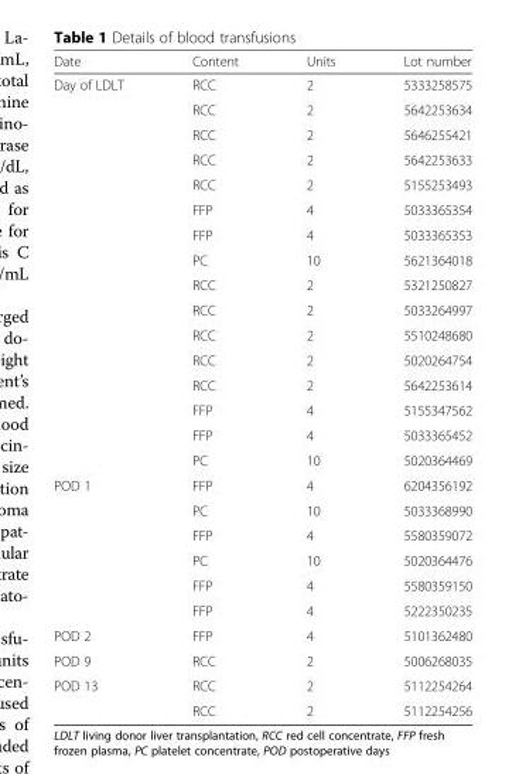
<table><thead><tr><td>Date</td><td>Content</td><td>Units</td><td>Lot number</td></tr></thead><tbody><tr><td rowspan="16">Day of LDLT</td><td>RCC</td><td>2</td><td>5333258575</td></tr><tr><td>RCC</td><td>2</td><td>5642253634</td></tr><tr><td>RCC</td><td>2</td><td>5646255421</td></tr><tr><td>RCC</td><td>2</td><td>5642253633</td></tr><tr><td>RCC</td><td>2</td><td>5155253493</td></tr><tr><td>FFP</td><td>4</td><td>5033365354</td></tr><tr><td>FFP</td><td>4</td><td>5033365353</td></tr><tr><td>PC</td><td>10</td><td>5621364018</td></tr><tr><td>RCC</td><td>2</td><td>5321250827</td></tr><tr><td>RCC</td><td>2</td><td>5033264997</td></tr><tr><td>RCC</td><td>2</td><td>5510248680</td></tr><tr><td>RCC</td><td>2</td><td>5020264754</td></tr><tr><td>RCC</td><td>2</td><td>5642253614</td></tr><tr><td>FFP</td><td>4</td><td>5155347562</td></tr><tr><td>FFP</td><td>4</td><td>5033365452</td></tr><tr><td>PC</td><td>10</td><td>5020364469</td></tr><tr><td rowspan="6">POD 1</td><td>FFP</td><td>4</td><td>6204356192</td></tr><tr><td>PC</td><td>10</td><td>5033368990</td></tr><tr><td>FFP</td><td>4</td><td>5580359072</td></tr><tr><td>PC</td><td>10</td><td>5020364476</td></tr><tr><td>FFP</td><td>4</td><td>5580359150</td></tr><tr><td>FFP</td><td>4</td><td>5222350235</td></tr><tr><td>POD 2</td><td>FFP</td><td>4</td><td>5101362480</td></tr><tr><td>POD 9</td><td>RCC</td><td>2</td><td>5006268035</td></tr><tr><td rowspan="2">POD 13</td><td>RCC</td><td>2</td><td>5112254264</td></tr><tr><td>RCC</td><td>2</td><td>5112254256</td></tr></tbody></table>